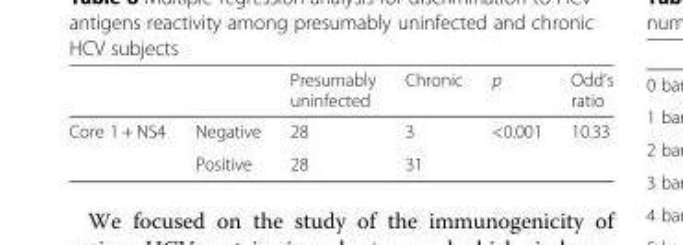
<table><thead><tr><td></td><td></td><td>Presumably uninfected</td><td>Chronic</td><td>p</td><td>Odd’s ratio</td></tr></thead><tbody><tr><td rowspan="2">Core 1 + NS4</td><td>Negative</td><td>28</td><td>3</td><td rowspan="2">&lt;0.001</td><td rowspan="2">10.33</td></tr><tr><td>Positive</td><td>28</td><td>31</td></tr></tbody></table>